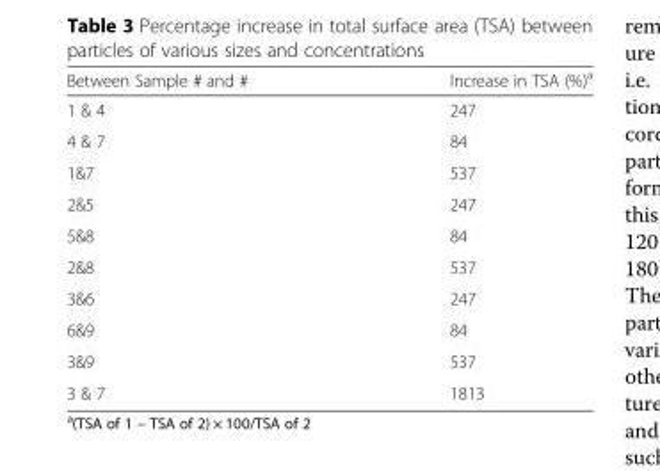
<table><thead><tr><td>Between Sample # and #</td><td>Increase in TSA (%)<sup>a</sup></td></tr></thead><tbody><tr><td>1 &amp; 4</td><td>247</td></tr><tr><td>4 &amp; 7</td><td>84</td></tr><tr><td>1&amp;7</td><td>537</td></tr><tr><td>2&amp;5</td><td>247</td></tr><tr><td>5&amp;8</td><td>84</td></tr><tr><td>2&amp;8</td><td>537</td></tr><tr><td>3&amp;6</td><td>247</td></tr><tr><td>6&amp;9</td><td>84</td></tr><tr><td>3&amp;9</td><td>537</td></tr><tr><td>3 &amp; 7</td><td>1813</td></tr></tbody></table>